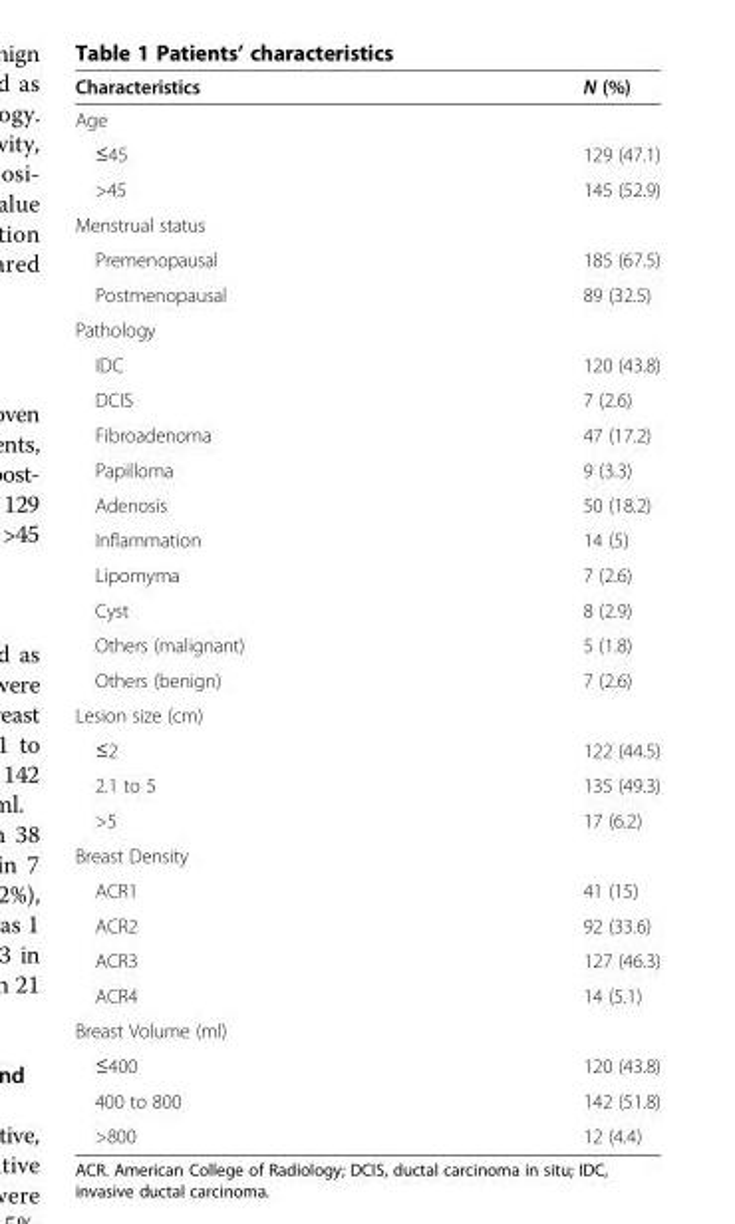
<table><thead><tr><td>Characteristics</td><td>N (%)</td></tr></thead><tbody><tr><td colspan="2">Age</td></tr><tr><td>≤45</td><td>129 (47.1)</td></tr><tr><td>&gt;45</td><td>145 (52.9)</td></tr><tr><td colspan="2">Menstrual status</td></tr><tr><td>Premenopausal</td><td>185 (67.5)</td></tr><tr><td>Postmenopausal</td><td>89 (32.5)</td></tr><tr><td colspan="2">Pathology</td></tr><tr><td>IDC</td><td>120 (43.8)</td></tr><tr><td>DCIS</td><td>7 (2.6)</td></tr><tr><td>Fibroadenoma</td><td>47 (17.2)</td></tr><tr><td>Papilloma</td><td>9 (3.3)</td></tr><tr><td>Adenosis</td><td>50 (18.2)</td></tr><tr><td>Inflammation</td><td>14 (5)</td></tr><tr><td>Lipomyma</td><td>7 (2.6)</td></tr><tr><td>Cyst</td><td>8 (2.9)</td></tr><tr><td>Others (malignant)</td><td>5 (1.8)</td></tr><tr><td>Others (benign)</td><td>7 (2.6)</td></tr><tr><td colspan="2">Lesion size (cm)</td></tr><tr><td>≤2</td><td>122 (44.5)</td></tr><tr><td>2.1 to 5</td><td>135 (49.3)</td></tr><tr><td>&gt;5</td><td>17 (6.2)</td></tr><tr><td colspan="2">Breast Density</td></tr><tr><td>ACR1</td><td>41 (15)</td></tr><tr><td>ACR2</td><td>92 (33.6)</td></tr><tr><td>ACR3</td><td>127 (46.3)</td></tr><tr><td>ACR4</td><td>14 (5.1)</td></tr><tr><td colspan="2">Breast Volume (ml)</td></tr><tr><td>≤400</td><td>120 (43.8)</td></tr><tr><td>400 to 800</td><td>142 (51.8)</td></tr><tr><td>&gt;800</td><td>12 (4.4)</td></tr></tbody></table>